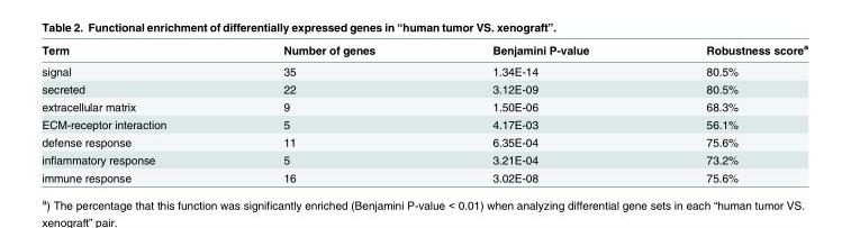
<table><thead><tr><td>Term</td><td>Number of genes</td><td>Benjamini P-value</td><td>Robustness score<sup>a</sup></td></tr></thead><tbody><tr><td>signal</td><td>35</td><td>1.34E-14</td><td>80.5%</td></tr><tr><td>secreted</td><td>22</td><td>3.12E-09</td><td>80.5%</td></tr><tr><td>extracellular matrix</td><td>9</td><td>1.50E-06</td><td>68.3%</td></tr><tr><td>ECM-receptor interaction</td><td>5</td><td>4.17E-03</td><td>56.1%</td></tr><tr><td>defense response</td><td>11</td><td>6.35E-04</td><td>75.6%</td></tr><tr><td>inflammatory response</td><td>5</td><td>3.21E-04</td><td>73.2%</td></tr><tr><td>immune response</td><td>16</td><td>3.02E-08</td><td>75.6%</td></tr></tbody></table>